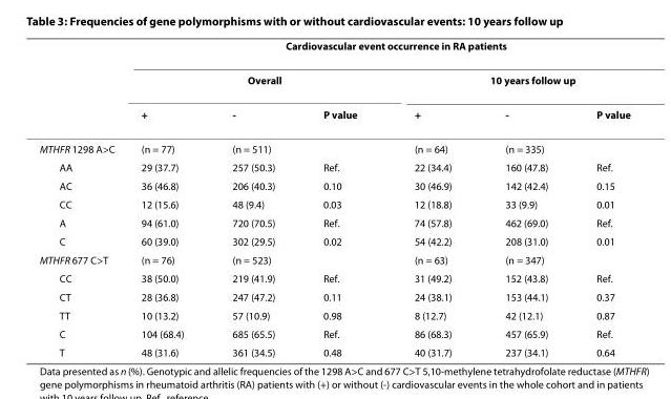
<table><thead><tr><td rowspan="3"></td><td colspan="6">Cardiovascular event occurrence in RA patients</td></tr><tr><td colspan="3">Overall</td><td colspan="3">10 years follow up</td></tr><tr><td>+</td><td>-</td><td>P value</td><td>+</td><td>-</td><td>P value</td></tr></thead><tbody><tr><td>MTHFR 1298 A&gt;C</td><td>(n = 77)</td><td>(n = 511)</td><td></td><td>(n = 64)</td><td>(n = 335)</td><td></td></tr><tr><td>AA</td><td>29 (37.7)</td><td>257 (50.3)</td><td>Ref.</td><td>22 (34.4)</td><td>160 (47.8)</td><td>Ref.</td></tr><tr><td>AC</td><td>36 (46.8)</td><td>206 (40.3)</td><td>0.10</td><td>30 (46.9)</td><td>142 (42.4)</td><td>0.15</td></tr><tr><td>CC</td><td>12 (15.6)</td><td>48 (9.4)</td><td>0.03</td><td>12 (18.8)</td><td>33 (9.9)</td><td>0.01</td></tr><tr><td>A</td><td>94 (61.0)</td><td>720 (70.5)</td><td>Ref.</td><td>74 (57.8)</td><td>462 (69.0)</td><td>Ref.</td></tr><tr><td>C</td><td>60 (39.0)</td><td>302 (29.5)</td><td>0.02</td><td>54 (42.2)</td><td>208 (31.0)</td><td>0.01</td></tr><tr><td>MTHFR 677 C&gt;T</td><td>(n = 76)</td><td>(n = 523)</td><td></td><td>(n = 63)</td><td>(n = 347)</td><td></td></tr><tr><td>CC</td><td>38 (50.0)</td><td>219 (41.9)</td><td>Ref.</td><td>31 (49.2)</td><td>152 (43.8)</td><td>Ref.</td></tr><tr><td>CT</td><td>28 (36.8)</td><td>247 (47.2)</td><td>0.11</td><td>24 (38.1)</td><td>153 (44.1)</td><td>0.37</td></tr><tr><td>TT</td><td>10 (13.2)</td><td>57 (10.9)</td><td>0.98</td><td>8 (12.7)</td><td>42 (12.1)</td><td>0.87</td></tr><tr><td>C</td><td>104 (68.4)</td><td>685 (65.5)</td><td>Ref.</td><td>86 (68.3)</td><td>457 (65.9)</td><td>Ref.</td></tr><tr><td>T</td><td>48 (31.6)</td><td>361 (34.5)</td><td>0.48</td><td>40 (31.7)</td><td>237 (34.1)</td><td>0.64</td></tr></tbody></table>